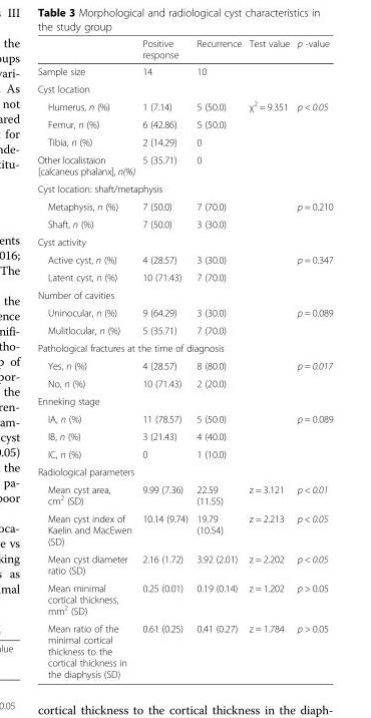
<table><thead><tr><td></td><td>Positive response</td><td>Recurrence</td><td>Test value</td><td>p -value</td></tr></thead><tbody><tr><td>Sample size</td><td>14</td><td>10</td><td></td><td></td></tr><tr><td colspan="5">Cyst location</td></tr><tr><td>Humerus, n (%)</td><td>1 (7.14)</td><td>5 (50.0)</td><td rowspan="4">χ<sup>2</sup> = 9.351</td><td rowspan="4">p &lt; 0.05</td></tr><tr><td>Femur, n (%)</td><td>6 (42.86)</td><td>5 (50.0)</td></tr><tr><td>Tibia, n (%)</td><td>2 (14.29)</td><td>0</td></tr><tr><td>Other localistaion [calcaneus phalanx], n(%)</td><td>5 (35.71)</td><td>0</td></tr><tr><td colspan="5">Cyst location: shaft/metaphysis</td></tr><tr><td>Metaphysis, n (%)</td><td>7 (50.0)</td><td>7 (70.0)</td><td rowspan="2"></td><td rowspan="2">p = 0.210</td></tr><tr><td>Shaft, n (%)</td><td>7 (50.0)</td><td>3 (30.0)</td></tr><tr><td colspan="5">Cyst activity</td></tr><tr><td>Active cyst, n (%)</td><td>4 (28.57)</td><td>3 (30.0)</td><td rowspan="2"></td><td rowspan="2">p = 0.347</td></tr><tr><td>Latent cyst, n (%)</td><td>10 (71.43)</td><td>7 (70.0)</td></tr><tr><td colspan="5">Number of cavities</td></tr><tr><td>Uninocular, n (%)</td><td>9 (64.29)</td><td>3 (30.0)</td><td rowspan="2"></td><td rowspan="2">p = 0.089</td></tr><tr><td>Mulitlocular, n (%)</td><td>5 (35.71)</td><td>7 (70.0)</td></tr><tr><td colspan="5">Pathological fractures at the time of diagnosis</td></tr><tr><td>Yes, n (%)</td><td>4 (28.57)</td><td>8 (80.0)</td><td rowspan="2"></td><td rowspan="2">p = 0.017</td></tr><tr><td>No, n (%)</td><td>10 (71.43)</td><td>2 (20.0)</td></tr><tr><td colspan="5">Enneking stage</td></tr><tr><td>IA, n (%)</td><td>11 (78.57)</td><td>5 (50.0)</td><td rowspan="3"></td><td rowspan="3">p = 0.089</td></tr><tr><td>IB, n (%)</td><td>3 (21.43)</td><td>4 (40.0)</td></tr><tr><td>IC, n (%)</td><td>0</td><td>1 (10.0)</td></tr><tr><td colspan="5">Radiological parameters</td></tr><tr><td>Mean cyst area, cm<sup>2</sup> (SD)</td><td>9.99 (7.36)</td><td>22.59 (11.55)</td><td>z = 3.121</td><td>p &lt; 0.01</td></tr><tr><td>Mean cyst index of Kaelin and MacEwen (SD)</td><td>10.14 (9.74)</td><td>19.79 (10.54)</td><td>z = 2.213</td><td>p &lt; 0.05</td></tr><tr><td>Mean cyst diameter ratio (SD)</td><td>2.16 (1.72)</td><td>3.92 (2.01)</td><td>z = 2.202</td><td>p &lt; 0.05</td></tr><tr><td>Mean minimal cortical thickness, mm<sup>2</sup> (SD)</td><td>0.25 (0.01)</td><td>0.19 (0.14)</td><td>z = 1.202</td><td>p &gt; 0.05</td></tr><tr><td>Mean ratio of the minimal cortical thickness to the cortical thickness in the diaphysis (SD)</td><td>0.61 (0.25)</td><td>0.41 (0.27)</td><td>z = 1.784</td><td>p &gt; 0.05</td></tr></tbody></table>